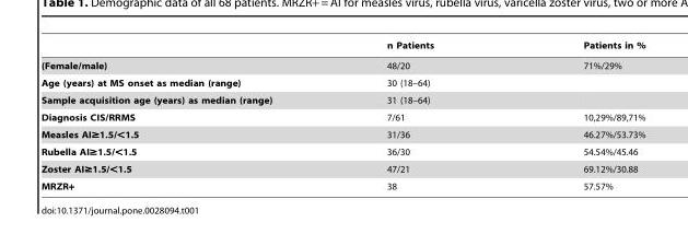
<table><thead><tr><td></td><td>n Patients</td><td>Patients in %</td></tr></thead><tbody><tr><td>(Female/male)</td><td>48/20</td><td>71%/29%</td></tr><tr><td>Age (years) at MS onset as median (range)</td><td>30 (18–64)</td><td></td></tr><tr><td>Sample acquisition age (years) as median (range)</td><td>31 (18–64)</td><td></td></tr><tr><td>Diagnosis CIS/RRMS</td><td>7/61</td><td>10,29%/89,71%</td></tr><tr><td>Measles AI≥1.5/&lt;1.5</td><td>31/36</td><td>46.27%/53.73%</td></tr><tr><td>Rubella AI≥1.5/&lt;1.5</td><td>36/30</td><td>54.54%/45.46</td></tr><tr><td>Zoster AI≥1.5/&lt;1.5</td><td>47/21</td><td>69.12%/30.88</td></tr><tr><td>MRZR+</td><td>38</td><td>57.57%</td></tr></tbody></table>